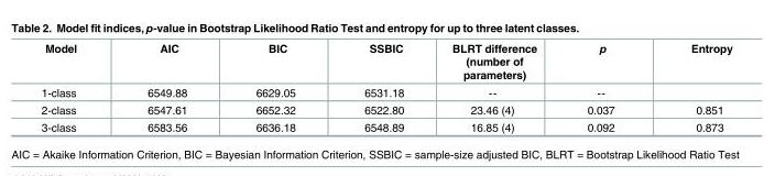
<table><thead><tr><td>Model</td><td>AIC</td><td>BIC</td><td>SSBIC</td><td>BLRT difference (number of parameters)</td><td>p</td><td>Entropy</td></tr></thead><tbody><tr><td>1-class</td><td>6549.88</td><td>6629.05</td><td>6531.18</td><td>--</td><td>--</td><td></td></tr><tr><td>2-class</td><td>6547.61</td><td>6652.32</td><td>6522.80</td><td>23.46 (4)</td><td>0.037</td><td>0.851</td></tr><tr><td>3-class</td><td>6583.56</td><td>6636.18</td><td>6548.89</td><td>16.85 (4)</td><td>0.092</td><td>0.873</td></tr></tbody></table>